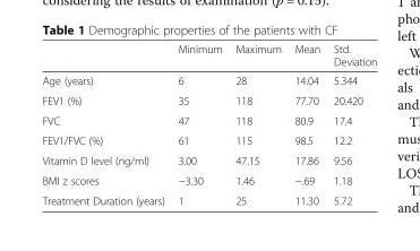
<table><thead><tr><td></td><td>Minimum</td><td>Maximum</td><td>Mean</td><td>Std. Deviation</td></tr></thead><tbody><tr><td>Age (years)</td><td>6</td><td>28</td><td>14.04</td><td>5.344</td></tr><tr><td>FEV1 (%)</td><td>35</td><td>118</td><td>77.70</td><td>20.420</td></tr><tr><td>FVC</td><td>47</td><td>118</td><td>80.9</td><td>17.4</td></tr><tr><td>FEV1/FVC (%)</td><td>61</td><td>115</td><td>98.5</td><td>12.2</td></tr><tr><td>Vitamin D level (ng/ml)</td><td>3.00</td><td>47.15</td><td>17.86</td><td>9.56</td></tr><tr><td>BMI z scores</td><td>−3.30</td><td>1.46</td><td>−.69</td><td>1.18</td></tr><tr><td>Treatment Duration (years)</td><td>1</td><td>25</td><td>11.30</td><td>5.72</td></tr></tbody></table>